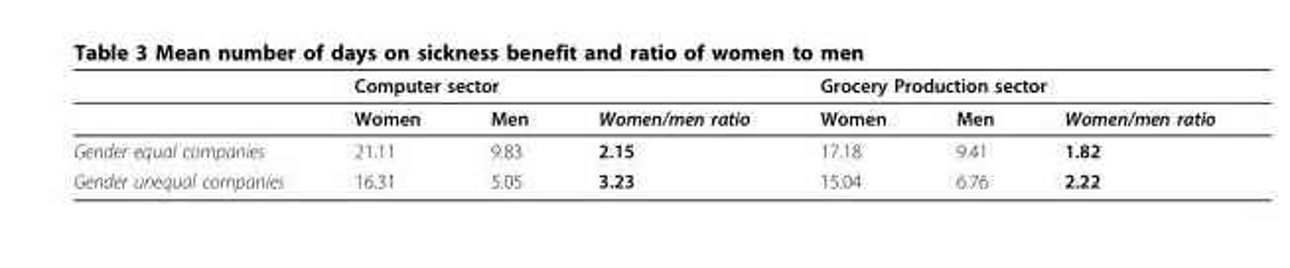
<table><thead><tr><td rowspan="2"></td><td colspan="3">Computer sector</td><td colspan="3">Grocery Production sector</td></tr><tr><td>Women</td><td>Men</td><td>Women/men ratio</td><td>Women</td><td>Men</td><td>Women/men ratio</td></tr></thead><tbody><tr><td>Gender equal companies</td><td>21.11</td><td>9.83</td><td>2.15</td><td>17.18</td><td>9.41</td><td>1.82</td></tr><tr><td>Gender unequal companies</td><td>16.31</td><td>5.05</td><td>3.23</td><td>15.04</td><td>6.76</td><td>2.22</td></tr></tbody></table>